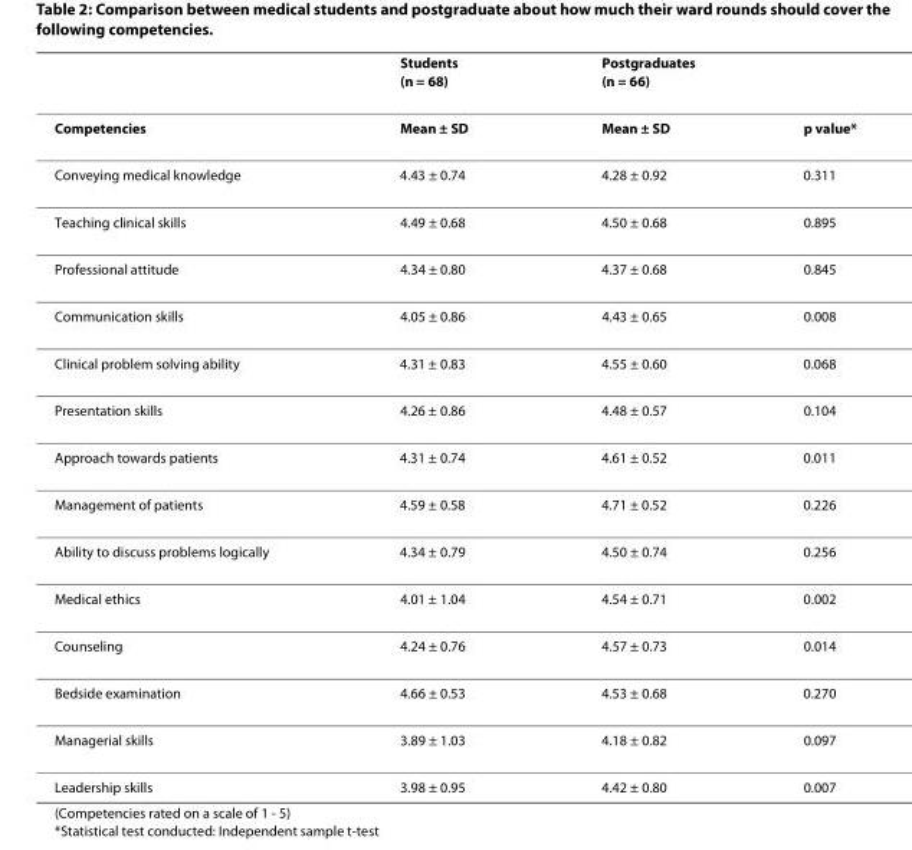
<table><thead><tr><td></td><td>Students (n = 68)</td><td>Postgraduates (n = 66)</td><td></td></tr></thead><tbody><tr><td>Competencies</td><td>Mean ± SD</td><td>Mean ± SD</td><td>p value*</td></tr><tr><td>Conveying medical knowledge</td><td>4.43 ± 0.74</td><td>4.28 ± 0.92</td><td>0.311</td></tr><tr><td>Teaching clinical skills</td><td>4.49 ± 0.68</td><td>4.50 ± 0.68</td><td>0.895</td></tr><tr><td>Professional attitude</td><td>4.34 ± 0.80</td><td>4.37 ± 0.68</td><td>0.845</td></tr><tr><td>Communication skills</td><td>4.05 ± 0.86</td><td>4.43 ± 0.65</td><td>0.008</td></tr><tr><td>Clinical problem solving ability</td><td>4.31 ± 0.83</td><td>4.55 ± 0.60</td><td>0.068</td></tr><tr><td>Presentation skills</td><td>4.26 ± 0.86</td><td>4.48 ± 0.57</td><td>0.104</td></tr><tr><td>Approach towards patients</td><td>4.31 ± 0.74</td><td>4.61 ± 0.52</td><td>0.011</td></tr><tr><td>Management of patients</td><td>4.59 ± 0.58</td><td>4.71 ± 0.52</td><td>0.226</td></tr><tr><td>Ability to discuss problems logically</td><td>4.34 ± 0.79</td><td>4.50 ± 0.74</td><td>0.256</td></tr><tr><td>Medical ethics</td><td>4.01 ± 1.04</td><td>4.54 ± 0.71</td><td>0.002</td></tr><tr><td>Counseling</td><td>4.24 ± 0.76</td><td>4.57 ± 0.73</td><td>0.014</td></tr><tr><td>Bedside examination</td><td>4.66 ± 0.53</td><td>4.53 ± 0.68</td><td>0.270</td></tr><tr><td>Managerial skills</td><td>3.89 ± 1.03</td><td>4.18 ± 0.82</td><td>0.097</td></tr><tr><td>Leadership skills</td><td>3.98 ± 0.95</td><td>4.42 ± 0.80</td><td>0.007</td></tr></tbody></table>